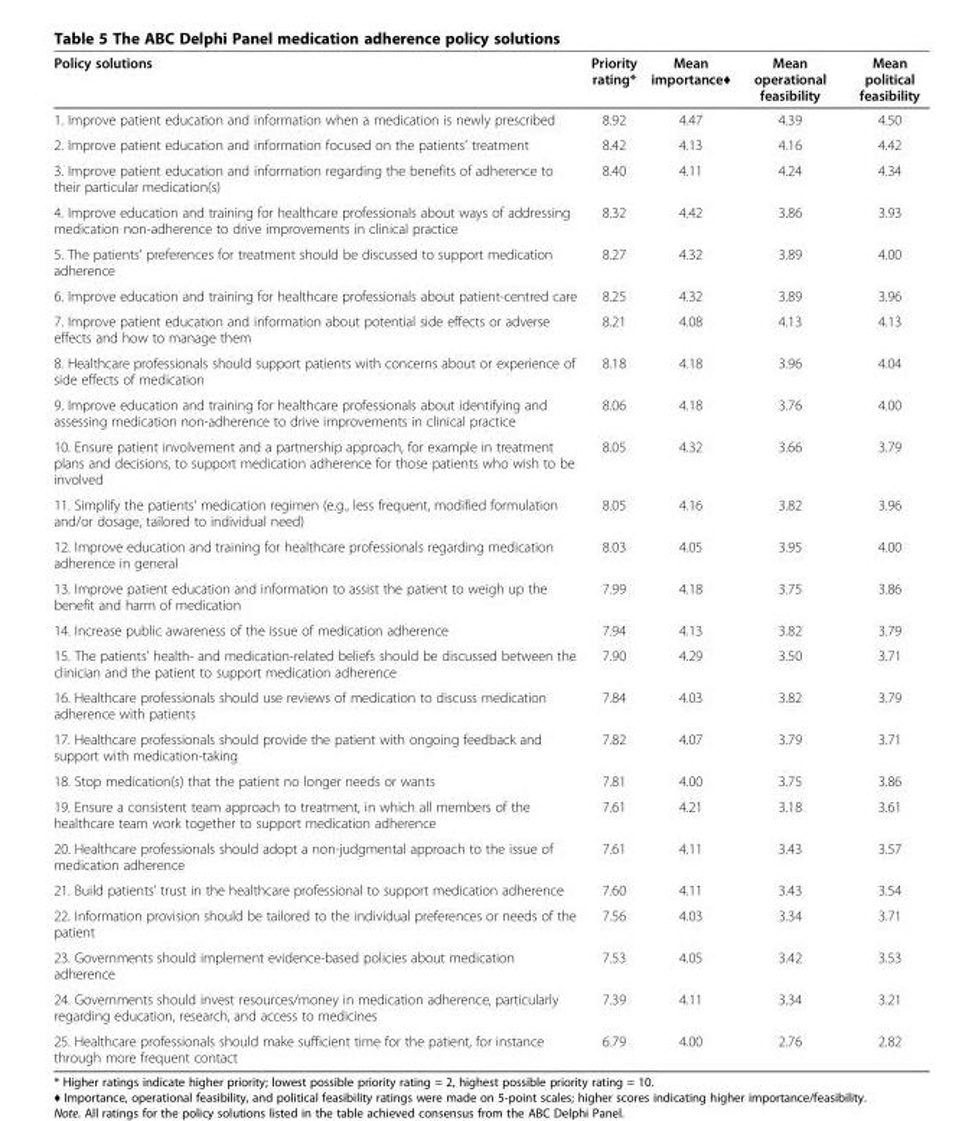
<table><thead><tr><td>Policy solutions</td><td>Priority rating*</td><td>Mean importance♦</td><td>Mean operational feasibility</td><td>Mean political feasibility</td></tr></thead><tbody><tr><td>1. Improve patient education and information when a medication is newly prescribed</td><td>8.92</td><td>4.47</td><td>4.39</td><td>4.50</td></tr><tr><td>2. Improve patient education and information focused on the patients’ treatment</td><td>8.42</td><td>4.13</td><td>4.16</td><td>4.42</td></tr><tr><td>3. Improve patient education and information regarding the benefits of adherence to their particular medication(s)</td><td>8.40</td><td>4.11</td><td>4.24</td><td>4.34</td></tr><tr><td>4. Improve education and training for healthcare professionals about ways of addressing medication non-adherence to drive improvements in clinical practice</td><td>8.32</td><td>4.42</td><td>3.86</td><td>3.93</td></tr><tr><td>5. The patients&#x27; preferences for treatment should be discussed to support medication adherence</td><td>8.27</td><td>4.32</td><td>3.89</td><td>4.00</td></tr><tr><td>6. Improve education and training for healthcare professionals about patient-centred care</td><td>8.25</td><td>4.32</td><td>3.89</td><td>3.96</td></tr><tr><td>7. Improve patient education and information about potential side effects or adverse effects and how to manage them</td><td>8.21</td><td>4.08</td><td>4.13</td><td>4.13</td></tr><tr><td>8. Healthcare professionals should support patients with concerns about or experience of side effects of medication</td><td>8.18</td><td>4.18</td><td>3.96</td><td>4.04</td></tr><tr><td>9. Improve education and training for healthcare professionals about identifying and assessing medication non-adherence to drive improvements in clinical practice</td><td>8.06</td><td>4.18</td><td>3.76</td><td>4.00</td></tr><tr><td>10. Ensure patient involvement and a partnership approach, for example in treatment plans and decisions, to support medication adherence for those patients who wish to be involved</td><td>8.05</td><td>4.32</td><td>3.66</td><td>3.79</td></tr><tr><td>11. Simplify the patients’ medication regimen (e.g., less frequent, modified formulation and/or dosage, tailored to individual need)</td><td>8.05</td><td>4.16</td><td>3.82</td><td>3.96</td></tr><tr><td>12. Improve education and training for healthcare professionals regarding medication adherence in general</td><td>8.03</td><td>4.05</td><td>3.95</td><td>4.00</td></tr><tr><td>13. Improve patient education and information to assist the patient to weigh up the benefit and harm of medication</td><td>7.99</td><td>4.18</td><td>3.75</td><td>3.86</td></tr><tr><td>14. Increase public awareness of the issue of medication adherence</td><td>7.94</td><td>4.13</td><td>3.82</td><td>3.79</td></tr><tr><td>15. The patients&#x27; health- and medication-related beliefs should be discussed between the clinician and the patient to support medication adherence</td><td>7.90</td><td>4.29</td><td>3.50</td><td>3.71</td></tr><tr><td>16. Healthcare professionals should use reviews of medication to discuss medication adherence with patients</td><td>7.84</td><td>4.03</td><td>3.82</td><td>3.79</td></tr><tr><td>17. Healthcare professionals should provide the patient with ongoing feedback and support with medication-taking</td><td>7.82</td><td>4.07</td><td>3.79</td><td>3.71</td></tr><tr><td>18. Stop medication(s) that the patient no longer needs or wants</td><td>7.81</td><td>4.00</td><td>3.75</td><td>3.86</td></tr><tr><td>19. Ensure a consistent team approach to treatment, in which all members of the healthcare team work together to support medication adherence</td><td>7.61</td><td>4.21</td><td>3.18</td><td>3.61</td></tr><tr><td>20. Healthcare professionals should adopt a non-judgmental approach to the issue of medication adherence</td><td>7.61</td><td>4.11</td><td>3.43</td><td>3.57</td></tr><tr><td>21. Build patients’ trust in the healthcare professional to support medication adherence</td><td>7.60</td><td>4.11</td><td>3.43</td><td>3.54</td></tr><tr><td>22. Information provision should be tailored to the individual preferences or needs of the patient</td><td>7.56</td><td>4.03</td><td>3.34</td><td>3.71</td></tr><tr><td>23. Governments should implement evidence-based policies about medication adherence</td><td>7.53</td><td>4.05</td><td>3.42</td><td>3.53</td></tr><tr><td>24. Governments should invest resources/money in medication adherence, particularly regarding education, research, and access to medicines</td><td>7.39</td><td>4.11</td><td>3.34</td><td>3.21</td></tr><tr><td>25. Healthcare professionals should make sufficient time for the patient, for instance through more frequent contact</td><td>6.79</td><td>4.00</td><td>2.76</td><td>2.82</td></tr></tbody></table>